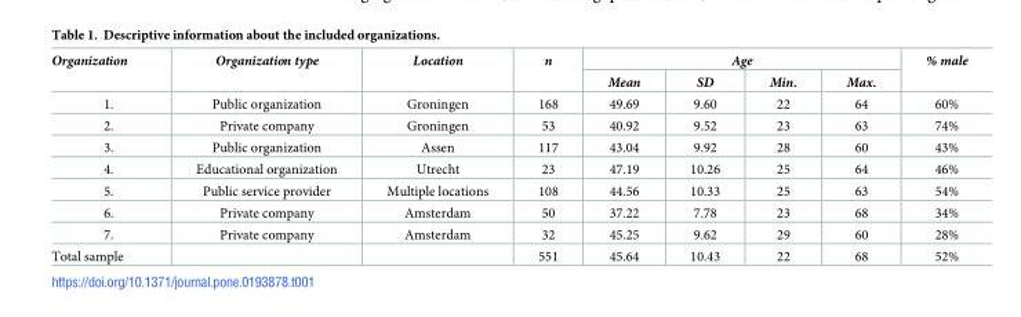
<table><thead><tr><td rowspan="2">Organization</td><td rowspan="2">Organization type</td><td rowspan="2">Location</td><td rowspan="2">n</td><td colspan="4">Age</td><td rowspan="2">% male</td></tr><tr><td>Mean</td><td>SD</td><td>Min.</td><td>Max.</td></tr></thead><tbody><tr><td>1.</td><td>Public organization</td><td>Groningen</td><td>168</td><td>49.69</td><td>9.60</td><td>22</td><td>64</td><td>60%</td></tr><tr><td>2.</td><td>Private company</td><td>Groningen</td><td>53</td><td>40.92</td><td>9.52</td><td>23</td><td>63</td><td>74%</td></tr><tr><td>3.</td><td>Public organization</td><td>Assen</td><td>117</td><td>43.04</td><td>9.92</td><td>28</td><td>60</td><td>43%</td></tr><tr><td>4.</td><td>Educational organization</td><td>Utrecht</td><td>23</td><td>47.19</td><td>10.26</td><td>25</td><td>64</td><td>46%</td></tr><tr><td>5.</td><td>Public service provider</td><td>Multiple locations</td><td>108</td><td>44.56</td><td>10.33</td><td>25</td><td>63</td><td>54%</td></tr><tr><td>6.</td><td>Private company</td><td>Amsterdam</td><td>50</td><td>37.22</td><td>7.78</td><td>23</td><td>68</td><td>34%</td></tr><tr><td>7.</td><td>Private company</td><td>Amsterdam</td><td>32</td><td>45.25</td><td>9.62</td><td>29</td><td>60</td><td>28%</td></tr><tr><td>Total sample</td><td></td><td></td><td>551</td><td>45.64</td><td>10.43</td><td>22</td><td>68</td><td>52%</td></tr></tbody></table>